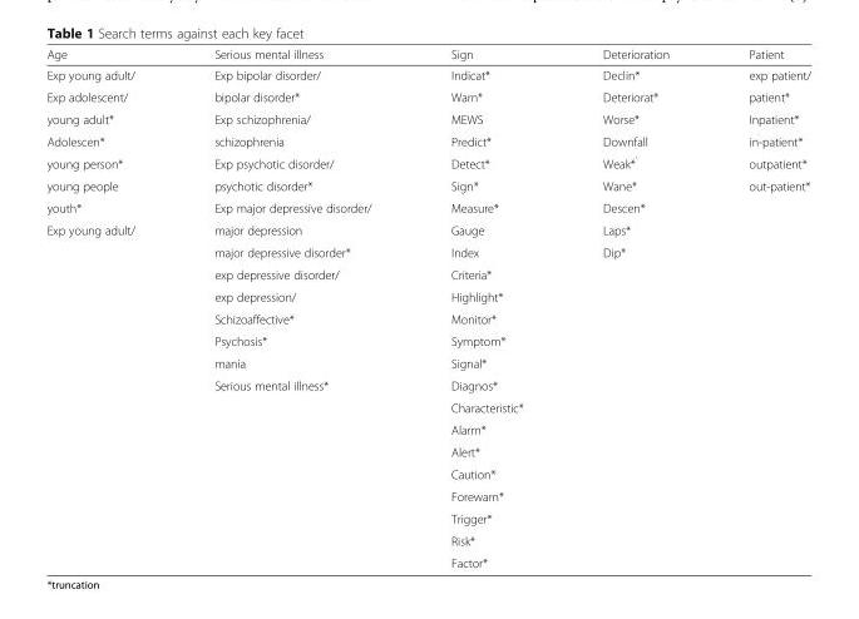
<table><thead><tr><td>Age</td><td>Serious mental illness</td><td>Sign</td><td>Deterioration</td><td>Patient</td></tr></thead><tbody><tr><td>Exp young adult/</td><td>Exp bipolar disorder/</td><td>Indicat*</td><td>Declin*</td><td>exp patient/</td></tr><tr><td>Exp adolescent/</td><td>bipolar disorder*</td><td>Warn*</td><td>Deteriorat*</td><td>patient*</td></tr><tr><td>young adult*</td><td>Exp schizophrenia/</td><td>MEWS</td><td>Worse*</td><td>Inpatient*</td></tr><tr><td>Adolescen*</td><td>schizophrenia</td><td>Predict*</td><td>Downfall</td><td>in-patient*</td></tr><tr><td>young person*</td><td>Exp psychotic disorder/</td><td>Detect*</td><td>Weak*<sup>`</sup></td><td>outpatient*</td></tr><tr><td>young people</td><td>psychotic disorder*</td><td>Sign*</td><td>Wane*</td><td>out-patient*</td></tr><tr><td>youth*</td><td>Exp major depressive disorder/</td><td>Measure*</td><td>Descen*</td><td></td></tr><tr><td rowspan="16">Exp young adult/</td><td>major depression</td><td>Gauge</td><td>Laps*</td><td></td></tr><tr><td>major depressive disorder*</td><td>Index</td><td>Dip*</td><td></td></tr><tr><td>exp depressive disorder/</td><td>Criteria*</td><td></td><td></td></tr><tr><td>exp depression/</td><td>Highlight*</td><td></td><td></td></tr><tr><td>Schizoaffective*</td><td>Monitor*</td><td></td><td></td></tr><tr><td>Psychosis*</td><td>Symptom*</td><td></td><td></td></tr><tr><td>mania</td><td>Signal*</td><td></td><td></td></tr><tr><td>Serious mental illness*</td><td>Diagnos*</td><td></td><td></td></tr><tr><td></td><td>Characteristic*</td><td></td><td></td></tr><tr><td></td><td>Alarm*</td><td></td><td></td></tr><tr><td></td><td>Alert*</td><td></td><td></td></tr><tr><td></td><td>Caution*</td><td></td><td></td></tr><tr><td></td><td>Forewarn*</td><td></td><td></td></tr><tr><td></td><td>Trigger*</td><td></td><td></td></tr><tr><td></td><td>Risk*</td><td></td><td></td></tr><tr><td></td><td>Factor*</td><td></td><td></td></tr></tbody></table>